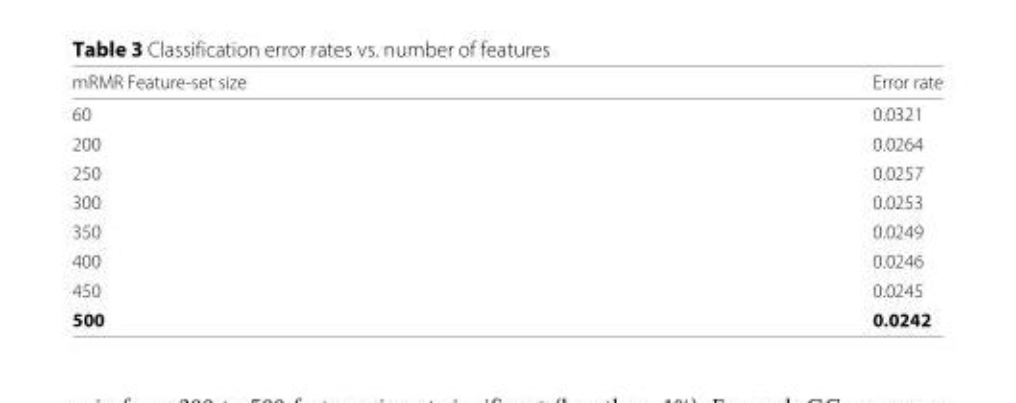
<table><thead><tr><td>mRMR Feature-set size</td><td>Error rate</td></tr></thead><tbody><tr><td>60</td><td>0.0321</td></tr><tr><td>200</td><td>0.0264</td></tr><tr><td>250</td><td>0.0257</td></tr><tr><td>300</td><td>0.0253</td></tr><tr><td>350</td><td>0.0249</td></tr><tr><td>400</td><td>0.0246</td></tr><tr><td>450</td><td>0.0245</td></tr><tr><td>500</td><td>0.0242</td></tr></tbody></table>